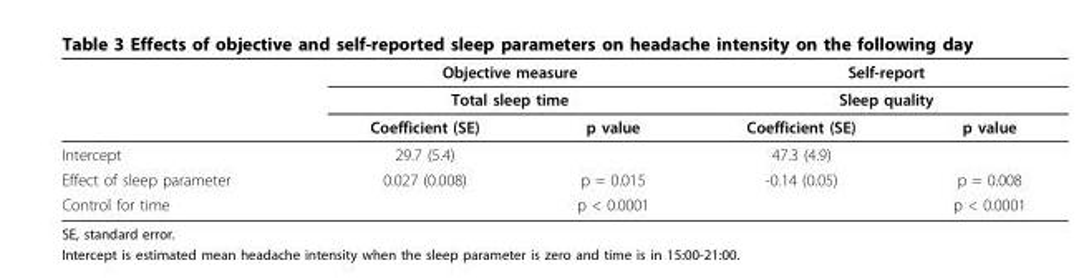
<table><thead><tr><td rowspan="3"></td><td rowspan="2" colspan="2">Objective measure Total sleep time</td><td rowspan="2" colspan="2">Self-report Sleep quality</td></tr><tr></tr><tr><td>Coefficient (SE)</td><td>p value</td><td>Coefficient (SE)</td><td>p value</td></tr></thead><tbody><tr><td>Intercept</td><td>29.7 (5.4)</td><td></td><td>47.3 (4.9)</td><td></td></tr><tr><td>Effect of sleep parameter</td><td>0.027 (0.008)</td><td>p = 0.015</td><td>-0.14 (0.05)</td><td>p = 0.008</td></tr><tr><td>Control for time</td><td></td><td>p &lt; 0.0001</td><td></td><td>p &lt; 0.0001</td></tr></tbody></table>